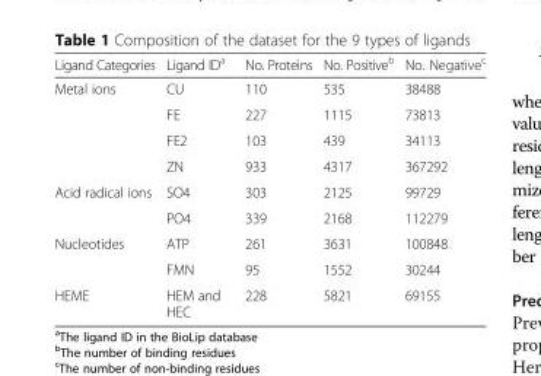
<table><thead><tr><td>Ligand Categories</td><td>Ligand ID<sup>a</sup></td><td>No. Proteins</td><td>No. Positive<sup>b</sup></td><td>No. Negative<sup>c</sup></td></tr></thead><tbody><tr><td rowspan="4">Metal ions</td><td>CU</td><td>110</td><td>535</td><td>38488</td></tr><tr><td>FE</td><td>227</td><td>1115</td><td>73813</td></tr><tr><td>FE2</td><td>103</td><td>439</td><td>34113</td></tr><tr><td>ZN</td><td>933</td><td>4317</td><td>367292</td></tr><tr><td rowspan="2">Acid radical ions</td><td>SO4</td><td>303</td><td>2125</td><td>99729</td></tr><tr><td>PO4</td><td>339</td><td>2168</td><td>112279</td></tr><tr><td rowspan="2">Nucleotides</td><td>ATP</td><td>261</td><td>3631</td><td>100848</td></tr><tr><td>FMN</td><td>95</td><td>1552</td><td>30244</td></tr><tr><td>HEME</td><td>HEM and HEC</td><td>228</td><td>5821</td><td>69155</td></tr></tbody></table>